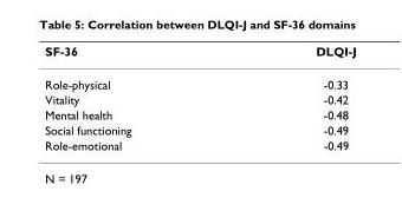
<table><thead><tr><td>SF-36</td><td>DLQI-J</td></tr></thead><tbody><tr><td>Role-physical</td><td>-0.33</td></tr><tr><td>Vitality</td><td>-0.42</td></tr><tr><td>Mental health</td><td>-0.48</td></tr><tr><td>Social functioning</td><td>-0.49</td></tr><tr><td>Role-emotional</td><td>-0.49</td></tr></tbody></table>